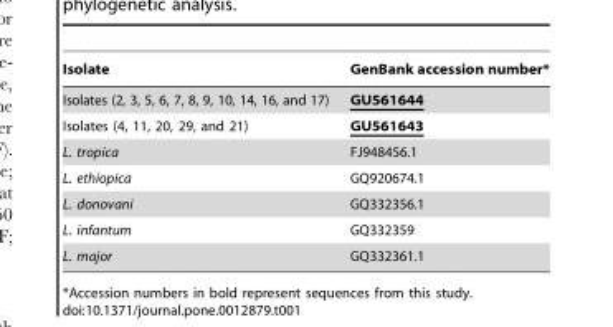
<table><thead><tr><td>Isolate</td><td>GenBank accession number*</td></tr></thead><tbody><tr><td>Isolates (2, 3, 5, 6, 7, 8, 9, 10, 14, 16, and 17)</td><td>GU561644</td></tr><tr><td>Isolates (4, 11, 20, 29, and 21)</td><td>GU561643</td></tr><tr><td>L. tropica</td><td>FJ948456.1</td></tr><tr><td>L. ethiopica</td><td>GQ920674.1</td></tr><tr><td>L. donovani</td><td>GQ332356.1</td></tr><tr><td>L. infantum</td><td>GQ332359</td></tr><tr><td>L. major</td><td>GQ332361.1</td></tr></tbody></table>